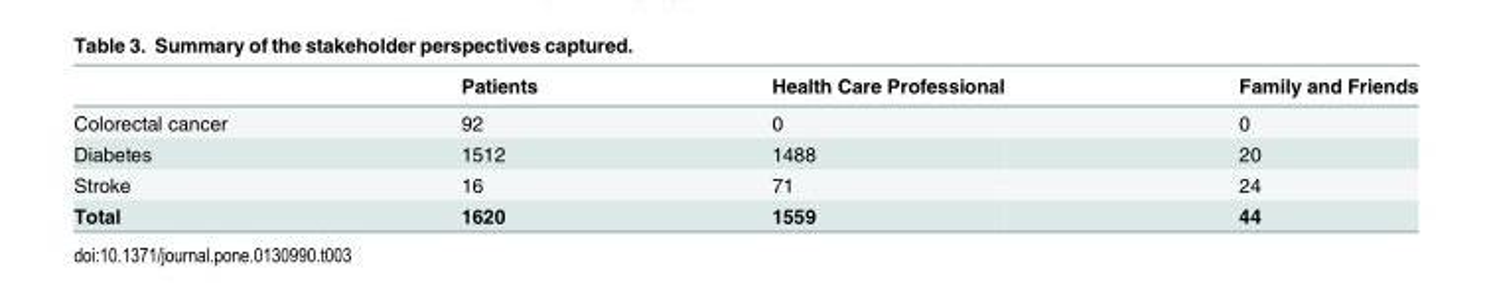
<table><thead><tr><td></td><td>Patients</td><td>Health Care Professional</td><td>Family and Friends</td></tr></thead><tbody><tr><td>Colorectal cancer</td><td>92</td><td>0</td><td>0</td></tr><tr><td>Diabetes</td><td>1512</td><td>1488</td><td>20</td></tr><tr><td>Stroke</td><td>16</td><td>71</td><td>24</td></tr><tr><td>Total</td><td>1620</td><td>1559</td><td>44</td></tr></tbody></table>